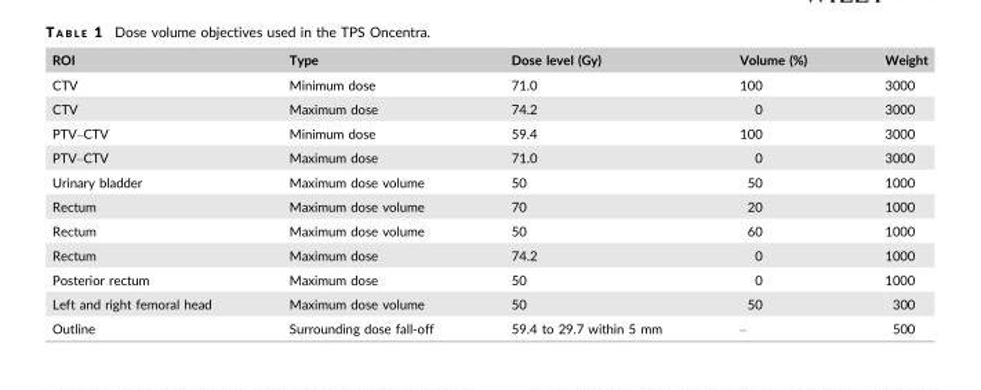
<table><thead><tr><td>ROI</td><td>Type</td><td>Dose level (Gy)</td><td>Volume (%)</td><td>Weight</td></tr></thead><tbody><tr><td>CTV</td><td>Minimum dose</td><td>71.0</td><td>100</td><td>3000</td></tr><tr><td>CTV</td><td>Maximum dose</td><td>74.2</td><td>0</td><td>3000</td></tr><tr><td>PTV–CTV</td><td>Minimum dose</td><td>59.4</td><td>100</td><td>3000</td></tr><tr><td>PTV–CTV</td><td>Maximum dose</td><td>71.0</td><td>0</td><td>3000</td></tr><tr><td>Urinary bladder</td><td>Maximum dose volume</td><td>50</td><td>50</td><td>1000</td></tr><tr><td>Rectum</td><td>Maximum dose volume</td><td>70</td><td>20</td><td>1000</td></tr><tr><td>Rectum</td><td>Maximum dose volume</td><td>50</td><td>60</td><td>1000</td></tr><tr><td>Rectum</td><td>Maximum dose</td><td>74.2</td><td>0</td><td>1000</td></tr><tr><td>Posterior rectum</td><td>Maximum dose</td><td>50</td><td>0</td><td>1000</td></tr><tr><td>Left and right femoral head</td><td>Maximum dose volume</td><td>50</td><td>50</td><td>300</td></tr><tr><td>Outline</td><td>Surrounding dose fall-off</td><td>59.4 to 29.7 within 5 mm</td><td>–</td><td>500</td></tr></tbody></table>